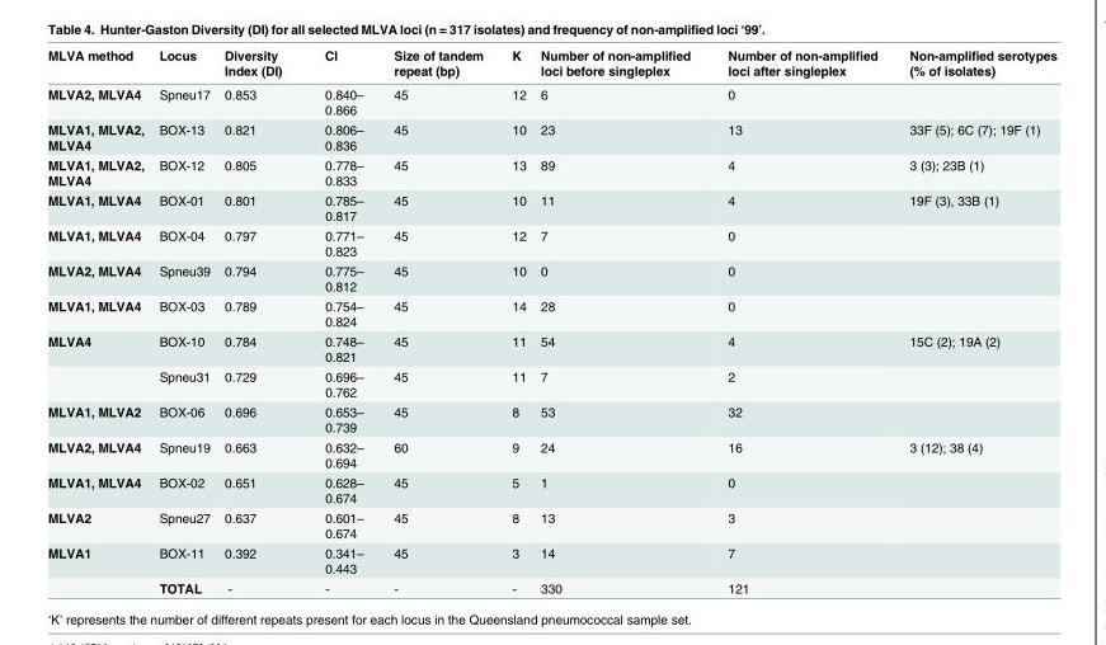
<table><thead><tr><td>MLVA method</td><td>Locus</td><td>Diversity Index (DI)</td><td>CI</td><td>Size of tandem repeat (bp)</td><td>K</td><td>Number of non-amplified loci before singleplex</td><td>Number of non-amplified loci after singleplex</td><td>Non-amplified serotypes (% of isolates)</td></tr></thead><tbody><tr><td>MLVA2, MLVA4</td><td>Spneu17</td><td>0.853</td><td>0.840– 0.866</td><td>45</td><td>12</td><td>6</td><td>0</td><td></td></tr><tr><td>MLVA1, MLVA2, MLVA4</td><td>BOX-13</td><td>0.821</td><td>0.806– 0.836</td><td>45</td><td>10</td><td>23</td><td>13</td><td>33F (5); 6C (7); 19F (1)</td></tr><tr><td>MLVA1, MLVA2, MLVA4</td><td>BOX-12</td><td>0.805</td><td>0.778– 0.833</td><td>45</td><td>13</td><td>89</td><td>4</td><td>3 (3); 23B (1)</td></tr><tr><td>MLVA1, MLVA4</td><td>BOX-01</td><td>0.801</td><td>0.785– 0.817</td><td>45</td><td>10</td><td>11</td><td>4</td><td>19F (3), 33B (1)</td></tr><tr><td>MLVA1, MLVA4</td><td>BOX-04</td><td>0.797</td><td>0.771– 0.823</td><td>45</td><td>12</td><td>7</td><td>0</td><td></td></tr><tr><td>MLVA2, MLVA4</td><td>Spneu39</td><td>0.794</td><td>0.775– 0.812</td><td>45</td><td>10</td><td>0</td><td>0</td><td></td></tr><tr><td>MLVA1, MLVA4</td><td>BOX-03</td><td>0.789</td><td>0.754– 0.824</td><td>45</td><td>14</td><td>28</td><td>0</td><td></td></tr><tr><td rowspan="2">MLVA4</td><td>BOX-10</td><td>0.784</td><td>0.748– 0.821</td><td>45</td><td>11</td><td>54</td><td>4</td><td>15C (2); 19A (2)</td></tr><tr><td>Spneu31</td><td>0.729</td><td>0.696– 0.762</td><td>45</td><td>11</td><td>7</td><td>2</td><td></td></tr><tr><td>MLVA1, MLVA2</td><td>BOX-06</td><td>0.696</td><td>0.653– 0.739</td><td>45</td><td>8</td><td>53</td><td>32</td><td></td></tr><tr><td>MLVA2, MLVA4</td><td>Spneu19</td><td>0.663</td><td>0.632– 0.694</td><td>60</td><td>9</td><td>24</td><td>16</td><td>3 (12); 38 (4)</td></tr><tr><td>MLVA1, MLVA4</td><td>BOX-02</td><td>0.651</td><td>0.628– 0.674</td><td>45</td><td>5</td><td>1</td><td>0</td><td></td></tr><tr><td>MLVA2</td><td>Spneu27</td><td>0.637</td><td>0.601– 0.674</td><td>45</td><td>8</td><td>13</td><td>3</td><td></td></tr><tr><td rowspan="2">MLVA1</td><td>BOX-11</td><td>0.392</td><td>0.341– 0.443</td><td>45</td><td>3</td><td>14</td><td>7</td><td></td></tr><tr><td>TOTAL</td><td>-</td><td>-</td><td>-</td><td>-</td><td>330</td><td>121</td><td></td></tr></tbody></table>